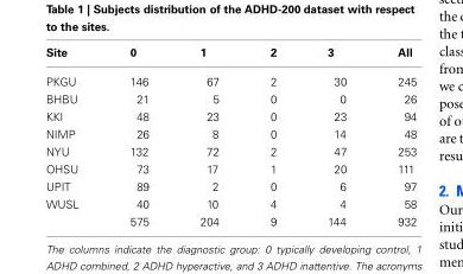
<table><thead><tr><td>Site</td><td>0</td><td>1</td><td>2</td><td>3</td><td>All</td></tr></thead><tbody><tr><td>PKGU</td><td>146</td><td>67</td><td>2</td><td>30</td><td>245</td></tr><tr><td>BHBU</td><td>21</td><td>5</td><td>0</td><td>0</td><td>26</td></tr><tr><td>KKI</td><td>48</td><td>23</td><td>0</td><td>23</td><td>94</td></tr><tr><td>NIMP</td><td>26</td><td>8</td><td>0</td><td>14</td><td>48</td></tr><tr><td>NYU</td><td>132</td><td>72</td><td>2</td><td>47</td><td>253</td></tr><tr><td>OHSU</td><td>73</td><td>17</td><td>1</td><td>20</td><td>111</td></tr><tr><td>UPIT</td><td>89</td><td>2</td><td>0</td><td>6</td><td>97</td></tr><tr><td rowspan="2">WUSL</td><td>40</td><td>10</td><td>4</td><td>4</td><td>58</td></tr><tr><td>575</td><td>204</td><td>9</td><td>144</td><td>932</td></tr></tbody></table>